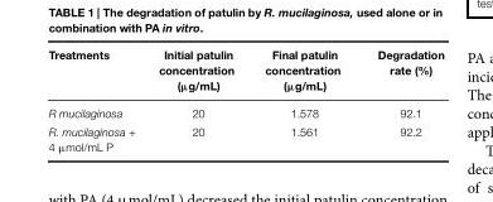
<table><thead><tr><td>Treatments</td><td>Initial patulin concentration (µg/mL)</td><td>Final patulin concentration (µg/mL)</td><td>Degradation rate (%)</td></tr></thead><tbody><tr><td>R mucilaginosa</td><td>20</td><td>1.578</td><td>92.1</td></tr><tr><td>R. mucilaginosa + 4 µmol/mL P</td><td>20</td><td>1.561</td><td>92.2</td></tr></tbody></table>